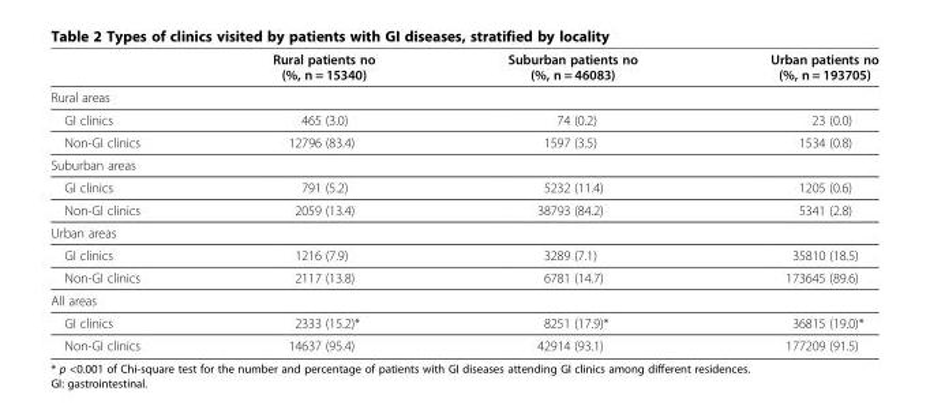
<table><thead><tr><td></td><td>Rural patients no (%, n = 15340)</td><td>Suburban patients no (%, n = 46083)</td><td>Urban patients no (%, n = 193705)</td></tr></thead><tbody><tr><td colspan="4">Rural areas</td></tr><tr><td>GI clinics</td><td>465 (3.0)</td><td>74 (0.2)</td><td>23 (0.0)</td></tr><tr><td>Non-GI clinics</td><td>12796 (83.4)</td><td>1597 (3.5)</td><td>1534 (0.8)</td></tr><tr><td colspan="4">Suburban areas</td></tr><tr><td>GI clinics</td><td>791 (5.2)</td><td>5232 (11.4)</td><td>1205 (0.6)</td></tr><tr><td>Non-GI clinics</td><td>2059 (13.4)</td><td>38793 (84.2)</td><td>5341 (2.8)</td></tr><tr><td colspan="4">Urban areas</td></tr><tr><td>GI clinics</td><td>1216 (7.9)</td><td>3289 (7.1)</td><td>35810 (18.5)</td></tr><tr><td>Non-GI clinics</td><td>2117 (13.8)</td><td>6781 (14.7)</td><td>173645 (89.6)</td></tr><tr><td colspan="4">All areas</td></tr><tr><td>GI clinics</td><td>2333 (15.2)*</td><td>8251 (17.9)*</td><td>36815 (19.0)*</td></tr><tr><td>Non-GI clinics</td><td>14637 (95.4)</td><td>42914 (93.1)</td><td>177209 (91.5)</td></tr></tbody></table>